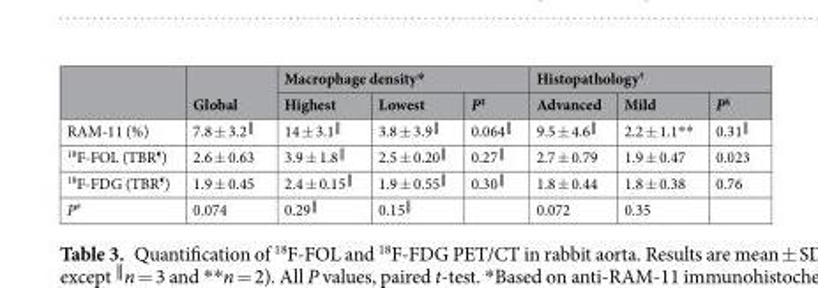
<table><thead><tr><td rowspan="2"></td><td rowspan="2">Global</td><td colspan="3">Macrophage density*</td><td colspan="3">Histopathology<sup>†</sup></td></tr><tr><td>Highest</td><td>Lowest</td><td>P<sup>‡</sup></td><td>Advanced</td><td>Mild</td><td>P<sup>§</sup></td></tr></thead><tbody><tr><td>RAM-11 (%)</td><td>7.8 ± 3.2<sup>║</sup></td><td>14 ± 3.1<sup>║</sup></td><td>3.8 ± 3.9<sup>║</sup></td><td>0.064<sup>║</sup></td><td>9.5 ± 4.6<sup>║</sup></td><td>2.2 ± 1.1**</td><td>0.31<sup>║</sup></td></tr><tr><td><sup>18</sup>F-FOL (TBR<sup>¶</sup>)</td><td>2.6 ± 0.63</td><td>3.9 ± 1.8<sup>║</sup></td><td>2.5 ± 0.20<sup>║</sup></td><td>0.27<sup>║</sup></td><td>2.7 ± 0.79</td><td>1.9 ± 0.47</td><td>0.023</td></tr><tr><td><sup>18</sup>F-FDG (TBR<sup>¶</sup>)</td><td>1.9 ± 0.45</td><td>2.4 ± 0.15<sup>║</sup></td><td>1.9 ± 0.55<sup>║</sup></td><td>0.30<sup>║</sup></td><td>1.8 ± 0.44</td><td>1.8 ± 0.38</td><td>0.76</td></tr><tr><td>P<sup>#</sup></td><td>0.074</td><td>0.29<sup>║</sup></td><td>0.15<sup>║</sup></td><td></td><td>0.072</td><td>0.35</td><td></td></tr></tbody></table>